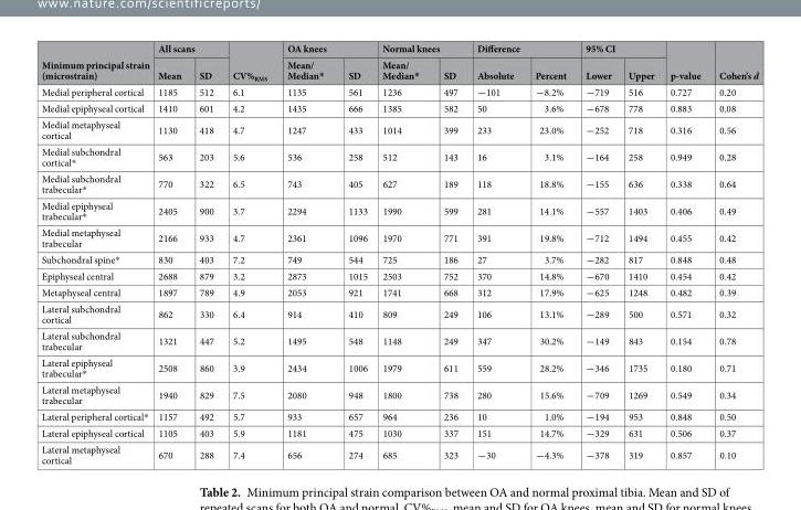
<table><thead><tr><td rowspan="2">Minimum principal strain (microstrain)</td><td colspan="2">All scans</td><td rowspan="2">CV%<sub>RMS</sub></td><td colspan="2">OA knees</td><td colspan="2">Normal knees</td><td colspan="2">Difference</td><td colspan="2">95% CI</td><td rowspan="2">p-value</td><td rowspan="2">Cohen’s d</td></tr><tr><td>Mean</td><td>SD</td><td>Mean/ Median*</td><td>SD</td><td>Mean/ Median*</td><td>SD</td><td>Absolute</td><td>Percent</td><td>Lower</td><td>Upper</td></tr></thead><tbody><tr><td>Medial peripheral cortical</td><td>1185</td><td>512</td><td>6.1</td><td>1135</td><td>561</td><td>1236</td><td>497</td><td>−101</td><td>−8.2%</td><td>−719</td><td>516</td><td>0.727</td><td>0.20</td></tr><tr><td>Medial epiphyseal cortical</td><td>1410</td><td>601</td><td>4.2</td><td>1435</td><td>666</td><td>1385</td><td>582</td><td>50</td><td>3.6%</td><td>−678</td><td>778</td><td>0.883</td><td>0.08</td></tr><tr><td>Medial metaphyseal cortical</td><td>1130</td><td>418</td><td>4.7</td><td>1247</td><td>433</td><td>1014</td><td>399</td><td>233</td><td>23.0%</td><td>−252</td><td>718</td><td>0.316</td><td>0.56</td></tr><tr><td>Medial subchondral cortical*</td><td>563</td><td>203</td><td>5.6</td><td>536</td><td>258</td><td>512</td><td>143</td><td>16</td><td>3.1%</td><td>−164</td><td>258</td><td>0.949</td><td>0.28</td></tr><tr><td>Medial subchondral trabecular*</td><td>770</td><td>322</td><td>6.5</td><td>743</td><td>405</td><td>627</td><td>189</td><td>118</td><td>18.8%</td><td>−155</td><td>636</td><td>0.338</td><td>0.64</td></tr><tr><td>Medial epiphyseal trabecular*</td><td>2405</td><td>900</td><td>3.7</td><td>2294</td><td>1133</td><td>1990</td><td>599</td><td>281</td><td>14.1%</td><td>−557</td><td>1403</td><td>0.406</td><td>0.49</td></tr><tr><td>Medial metaphyseal trabecular</td><td>2166</td><td>933</td><td>4.7</td><td>2361</td><td>1096</td><td>1970</td><td>771</td><td>391</td><td>19.8%</td><td>−712</td><td>1494</td><td>0.455</td><td>0.42</td></tr><tr><td>Subchondral spine*</td><td>830</td><td>403</td><td>7.2</td><td>749</td><td>544</td><td>725</td><td>186</td><td>27</td><td>3.7%</td><td>−282</td><td>817</td><td>0.848</td><td>0.48</td></tr><tr><td>Epiphyseal central</td><td>2688</td><td>879</td><td>3.2</td><td>2873</td><td>1015</td><td>2503</td><td>752</td><td>370</td><td>14.8%</td><td>−670</td><td>1410</td><td>0.454</td><td>0.42</td></tr><tr><td>Metaphyseal central</td><td>1897</td><td>789</td><td>4.9</td><td>2053</td><td>921</td><td>1741</td><td>668</td><td>312</td><td>17.9%</td><td>−625</td><td>1248</td><td>0.482</td><td>0.39</td></tr><tr><td>Lateral subchondral cortical</td><td>862</td><td>330</td><td>6.4</td><td>914</td><td>410</td><td>809</td><td>249</td><td>106</td><td>13.1%</td><td>−289</td><td>500</td><td>0.571</td><td>0.32</td></tr><tr><td>Lateral subchondral trabecular</td><td>1321</td><td>447</td><td>5.2</td><td>1495</td><td>548</td><td>1148</td><td>249</td><td>347</td><td>30.2%</td><td>−149</td><td>843</td><td>0.154</td><td>0.78</td></tr><tr><td>Lateral epiphyseal trabecular*</td><td>2508</td><td>860</td><td>3.9</td><td>2434</td><td>1006</td><td>1979</td><td>611</td><td>559</td><td>28.2%</td><td>−346</td><td>1735</td><td>0.180</td><td>0.71</td></tr><tr><td>Lateral metaphyseal trabecular</td><td>1940</td><td>829</td><td>7.5</td><td>2080</td><td>948</td><td>1800</td><td>738</td><td>280</td><td>15.6%</td><td>−709</td><td>1269</td><td>0.549</td><td>0.34</td></tr><tr><td>Lateral peripheral cortical*</td><td>1157</td><td>492</td><td>5.7</td><td>933</td><td>657</td><td>964</td><td>236</td><td>10</td><td>1.0%</td><td>−194</td><td>953</td><td>0.848</td><td>0.50</td></tr><tr><td>Lateral epiphyseal cortical</td><td>1105</td><td>403</td><td>5.9</td><td>1181</td><td>475</td><td>1030</td><td>337</td><td>151</td><td>14.7%</td><td>−329</td><td>631</td><td>0.506</td><td>0.37</td></tr><tr><td>Lateral metaphyseal cortical</td><td>670</td><td>288</td><td>7.4</td><td>656</td><td>274</td><td>685</td><td>323</td><td>−30</td><td>−4.3%</td><td>−378</td><td>319</td><td>0.857</td><td>0.10</td></tr></tbody></table>